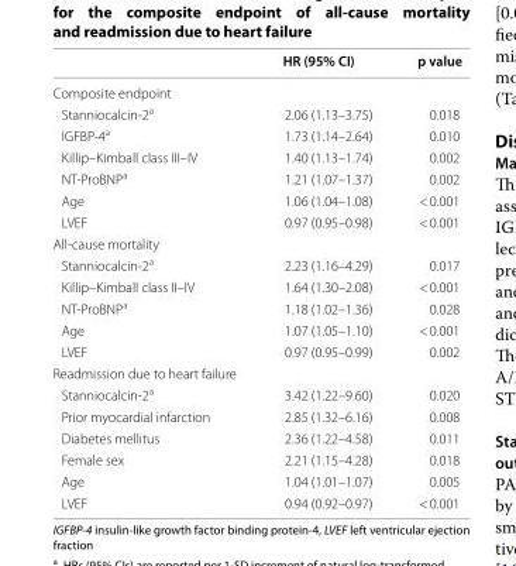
<table><thead><tr><td></td><td>HR (95% CI)</td><td>p value</td></tr></thead><tbody><tr><td colspan="3">Composite endpoint</td></tr><tr><td>Stanniocalcin‑2<sup>a</sup></td><td>2.06 (1.13–3.75)</td><td>0.018</td></tr><tr><td>IGFBP‑4<sup>a</sup></td><td>1.73 (1.14–2.64)</td><td>0.010</td></tr><tr><td>Killip–Kimball class III–IV</td><td>1.40 (1.13–1.74)</td><td>0.002</td></tr><tr><td>NT‑ProBNP<sup>a</sup></td><td>1.21 (1.07–1.37)</td><td>0.002</td></tr><tr><td>Age</td><td>1.06 (1.04–1.08)</td><td>&lt; 0.001</td></tr><tr><td>LVEF</td><td>0.97 (0.95–0.98)</td><td>&lt; 0.001</td></tr><tr><td colspan="3">All‑cause mortality</td></tr><tr><td>Stanniocalcin‑2<sup>a</sup></td><td>2.23 (1.16–4.29)</td><td>0.017</td></tr><tr><td>Killip–Kimball class II–IV</td><td>1.64 (1.30–2.08)</td><td>&lt; 0.001</td></tr><tr><td>NT‑ProBNP<sup>a</sup></td><td>1.18 (1.02–1.36)</td><td>0.028</td></tr><tr><td>Age</td><td>1.07 (1.05–1.10)</td><td>&lt; 0.001</td></tr><tr><td>LVEF</td><td>0.97 (0.95–0.99)</td><td>0.002</td></tr><tr><td colspan="3">Readmission due to heart failure</td></tr><tr><td>Stanniocalcin‑2<sup>a</sup></td><td>3.42 (1.22–9.60)</td><td>0.020</td></tr><tr><td>Prior myocardial infarction</td><td>2.85 (1.32–6.16)</td><td>0.008</td></tr><tr><td>Diabetes mellitus</td><td>2.36 (1.22–4.58)</td><td>0.011</td></tr><tr><td>Female sex</td><td>2.21 (1.15–4.28)</td><td>0.018</td></tr><tr><td>Age</td><td>1.04 (1.01–1.07)</td><td>0.005</td></tr><tr><td>LVEF</td><td>0.94 (0.92–0.97)</td><td>&lt; 0.001</td></tr></tbody></table>